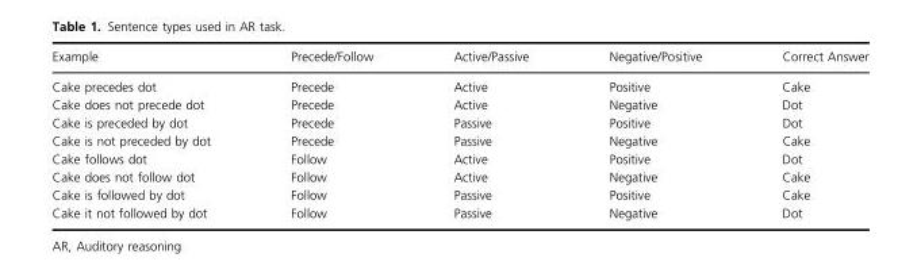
<table><thead><tr><td>Example</td><td>Precede/Follow</td><td>Active/Passive</td><td>Negative/Positive</td><td>Correct Answer</td></tr></thead><tbody><tr><td>Cake precedes dot</td><td>Precede</td><td>Active</td><td>Positive</td><td>Cake</td></tr><tr><td>Cake does not precede dot</td><td>Precede</td><td>Active</td><td>Negative</td><td>Dot</td></tr><tr><td>Cake is preceded by dot</td><td>Precede</td><td>Passive</td><td>Positive</td><td>Dot</td></tr><tr><td>Cake is not preceded by dot</td><td>Precede</td><td>Passive</td><td>Negative</td><td>Cake</td></tr><tr><td>Cake follows dot</td><td>Follow</td><td>Active</td><td>Positive</td><td>Dot</td></tr><tr><td>Cake does not follow dot</td><td>Follow</td><td>Active</td><td>Negative</td><td>Cake</td></tr><tr><td>Cake is followed by dot</td><td>Follow</td><td>Passive</td><td>Positive</td><td>Cake</td></tr><tr><td>Cake it not followed by dot</td><td>Follow</td><td>Passive</td><td>Negative</td><td>Dot</td></tr></tbody></table>